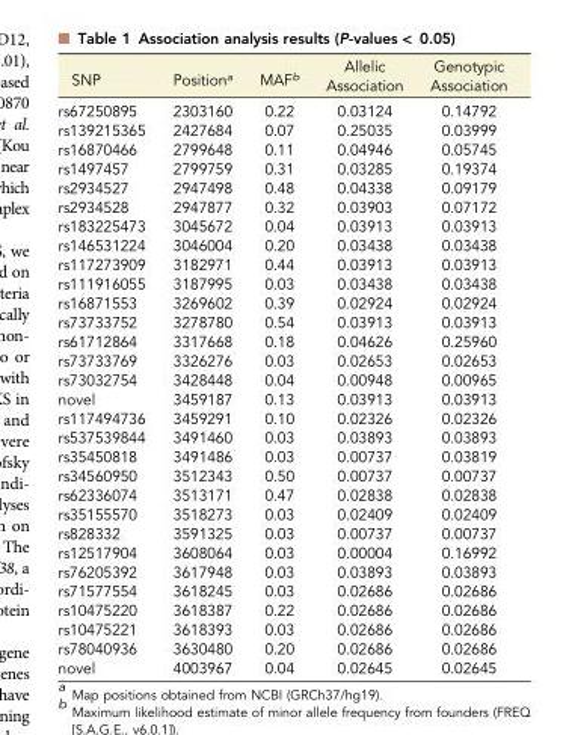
<table><thead><tr><td>SNP</td><td>Position<sup>a</sup></td><td>MAF<sup>b</sup></td><td>Allelic Association</td><td>Genotypic Association</td></tr></thead><tbody><tr><td>rs67250895</td><td>2303160</td><td>0.22</td><td>0.03124</td><td>0.14792</td></tr><tr><td>rs139215365</td><td>2427684</td><td>0.07</td><td>0.25035</td><td>0.03999</td></tr><tr><td>rs16870466</td><td>2799648</td><td>0.11</td><td>0.04946</td><td>0.05745</td></tr><tr><td>rs1497457</td><td>2799759</td><td>0.31</td><td>0.03285</td><td>0.19374</td></tr><tr><td>rs2934527</td><td>2947498</td><td>0.48</td><td>0.04338</td><td>0.09179</td></tr><tr><td>rs2934528</td><td>2947877</td><td>0.32</td><td>0.03903</td><td>0.07172</td></tr><tr><td>rs183225473</td><td>3045672</td><td>0.04</td><td>0.03913</td><td>0.03913</td></tr><tr><td>rs146531224</td><td>3046004</td><td>0.20</td><td>0.03438</td><td>0.03438</td></tr><tr><td>rs117273909</td><td>3182971</td><td>0.44</td><td>0.03913</td><td>0.03913</td></tr><tr><td>rs111916055</td><td>3187995</td><td>0.03</td><td>0.03438</td><td>0.03438</td></tr><tr><td>rs16871553</td><td>3269602</td><td>0.39</td><td>0.02924</td><td>0.02924</td></tr><tr><td>rs73733752</td><td>3278780</td><td>0.54</td><td>0.03913</td><td>0.03913</td></tr><tr><td>rs61712864</td><td>3317668</td><td>0.18</td><td>0.04626</td><td>0.25960</td></tr><tr><td>rs73733769</td><td>3326276</td><td>0.03</td><td>0.02653</td><td>0.02653</td></tr><tr><td>rs73032754</td><td>3428448</td><td>0.04</td><td>0.00948</td><td>0.00965</td></tr><tr><td>novel</td><td>3459187</td><td>0.13</td><td>0.03913</td><td>0.03913</td></tr><tr><td>rs117494736</td><td>3459291</td><td>0.10</td><td>0.02326</td><td>0.02326</td></tr><tr><td>rs537539844</td><td>3491460</td><td>0.03</td><td>0.03893</td><td>0.03893</td></tr><tr><td>rs35450818</td><td>3491486</td><td>0.03</td><td>0.00737</td><td>0.03819</td></tr><tr><td>rs34560950</td><td>3512343</td><td>0.50</td><td>0.00737</td><td>0.00737</td></tr><tr><td>rs62336074</td><td>3513171</td><td>0.47</td><td>0.02838</td><td>0.02838</td></tr><tr><td>rs35155570</td><td>3518273</td><td>0.03</td><td>0.02409</td><td>0.02409</td></tr><tr><td>rs828332</td><td>3591325</td><td>0.03</td><td>0.00737</td><td>0.00737</td></tr><tr><td>rs12517904</td><td>3608064</td><td>0.03</td><td>0.00004</td><td>0.16992</td></tr><tr><td>rs76205392</td><td>3617948</td><td>0.03</td><td>0.03893</td><td>0.03893</td></tr><tr><td>rs71577554</td><td>3618245</td><td>0.03</td><td>0.02686</td><td>0.02686</td></tr><tr><td>rs10475220</td><td>3618387</td><td>0.22</td><td>0.02686</td><td>0.02686</td></tr><tr><td>rs10475221</td><td>3618393</td><td>0.03</td><td>0.02686</td><td>0.02686</td></tr><tr><td>rs78040936</td><td>3630480</td><td>0.20</td><td>0.02686</td><td>0.02686</td></tr><tr><td>novel</td><td>4003967</td><td>0.04</td><td>0.02645</td><td>0.02645</td></tr></tbody></table>